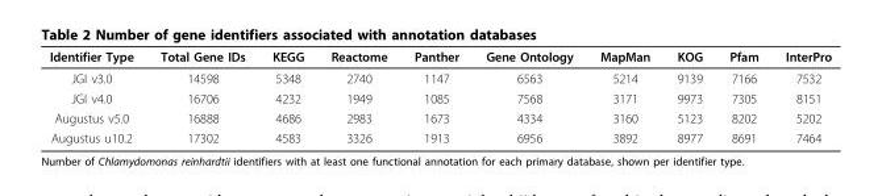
<table><thead><tr><td>Identifier Type</td><td>Total Gene IDs</td><td>KEGG</td><td>Reactome</td><td>Panther</td><td>Gene Ontology</td><td>MapMan</td><td>KOG</td><td>Pfam</td><td>InterPro</td></tr></thead><tbody><tr><td>JGI v3.0</td><td>14598</td><td>5348</td><td>2740</td><td>1147</td><td>6563</td><td>5214</td><td>9139</td><td>7166</td><td>7532</td></tr><tr><td>JGI v4.0</td><td>16706</td><td>4232</td><td>1949</td><td>1085</td><td>7568</td><td>3171</td><td>9973</td><td>7305</td><td>8151</td></tr><tr><td>Augustus v5.0</td><td>16888</td><td>4686</td><td>2983</td><td>1673</td><td>4334</td><td>3160</td><td>5123</td><td>8202</td><td>5202</td></tr><tr><td>Augustus u10.2</td><td>17302</td><td>4583</td><td>3326</td><td>1913</td><td>6956</td><td>3892</td><td>8977</td><td>8691</td><td>7464</td></tr></tbody></table>